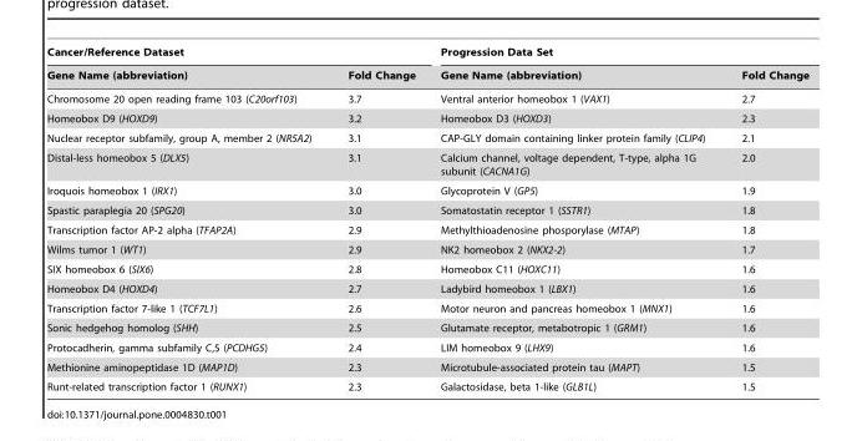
<table><thead><tr><td colspan="2">Cancer/Reference Dataset</td><td colspan="2">Progression Data Set</td></tr><tr><td>Gene Name (abbreviation)</td><td>Fold Change</td><td>Gene Name (abbreviation)</td><td>Fold Change</td></tr></thead><tbody><tr><td>Chromosome 20 open reading frame 103 (C20orf103)</td><td>3.7</td><td>Ventral anterior homeobox 1 (VAX1)</td><td>2.7</td></tr><tr><td>Homeobox D9 (HOXD9)</td><td>3.2</td><td>Homeobox D3 (HOXD3)</td><td>2.3</td></tr><tr><td>Nuclear receptor subfamily, group A, member 2 (NR5A2)</td><td>3.1</td><td>CAP-GLY domain containing linker protein family (CLIP4)</td><td>2.1</td></tr><tr><td>Distal-less homeobox 5 (DLX5)</td><td>3.1</td><td>Calcium channel, voltage dependent, T-type, alpha 1G subunit (CACNA1G)</td><td>2.0</td></tr><tr><td>Iroquois homeobox 1 (IRX1)</td><td>3.0</td><td>Glycoprotein V (GP5)</td><td>1.9</td></tr><tr><td>Spastic paraplegia 20 (SPG20)</td><td>3.0</td><td>Somatostatin receptor 1 (SSTR1)</td><td>1.8</td></tr><tr><td>Transcription factor AP-2 alpha (TFAP2A)</td><td>2.9</td><td>Methylthioadenosine phosporylase (MTAP)</td><td>1.8</td></tr><tr><td>Wilms tumor 1 (WT1)</td><td>2.9</td><td>NK2 homeobox 2 (NKX2-2)</td><td>1.7</td></tr><tr><td>SIX homeobox 6 (SIX6)</td><td>2.8</td><td>Homeobox C11 (HOXC11)</td><td>1.6</td></tr><tr><td>Homeobox D4 (HOXD4)</td><td>2.7</td><td>Ladybird homeobox 1 (LBX1)</td><td>1.6</td></tr><tr><td>Transcription factor 7-like 1 (TCF7L1)</td><td>2.6</td><td>Motor neuron and pancreas homeobox 1 (MNX1)</td><td>1.6</td></tr><tr><td>Sonic hedgehog homolog (SHH)</td><td>2.5</td><td>Glutamate receptor, metabotropic 1 (GRM1)</td><td>1.6</td></tr><tr><td>Protocadherin, gamma subfamily C,5 (PCDHG5)</td><td>2.4</td><td>LIM homeobox 9 (LHX9)</td><td>1.6</td></tr><tr><td>Methionine aminopeptidase 1D (MAP1D)</td><td>2.3</td><td>Microtubule-associated protein tau (MAPT)</td><td>1.5</td></tr><tr><td>Runt-related transcription factor 1 (RUNX1)</td><td>2.3</td><td>Galactosidase, beta 1-like (GLB1L)</td><td>1.5</td></tr></tbody></table>